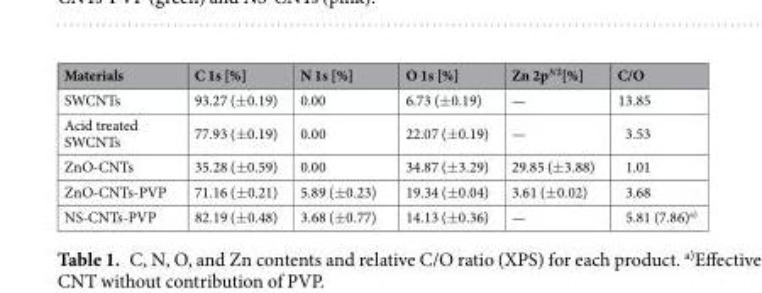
<table><thead><tr><td>Materials</td><td>C 1s [%]</td><td>N 1s [%]</td><td>O 1s [%]</td><td>Zn 2p<sup>3/2</sup>[%]</td><td>C/O</td></tr></thead><tbody><tr><td>SWCNTs</td><td>93.27 (±0.19)</td><td>0.00</td><td>6.73 (±0.19)</td><td>—</td><td>13.85</td></tr><tr><td>Acid treated SWCNTs</td><td>77.93 (±0.19)</td><td>0.00</td><td>22.07 (±0.19)</td><td>—</td><td>3.53</td></tr><tr><td>ZnO-CNTs</td><td>35.28 (±0.59)</td><td>0.00</td><td>34.87 (±3.29)</td><td>29.85 (±3.88)</td><td>1.01</td></tr><tr><td>ZnO-CNTs-PVP</td><td>71.16 (±0.21)</td><td>5.89 (±0.23)</td><td>19.34 (±0.04)</td><td>3.61 (±0.02)</td><td>3.68</td></tr><tr><td>NS-CNTs-PVP</td><td>82.19 (±0.48)</td><td>3.68 (±0.77)</td><td>14.13 (±0.36)</td><td>—</td><td>5.81 (7.86)<sup>a)</sup></td></tr></tbody></table>